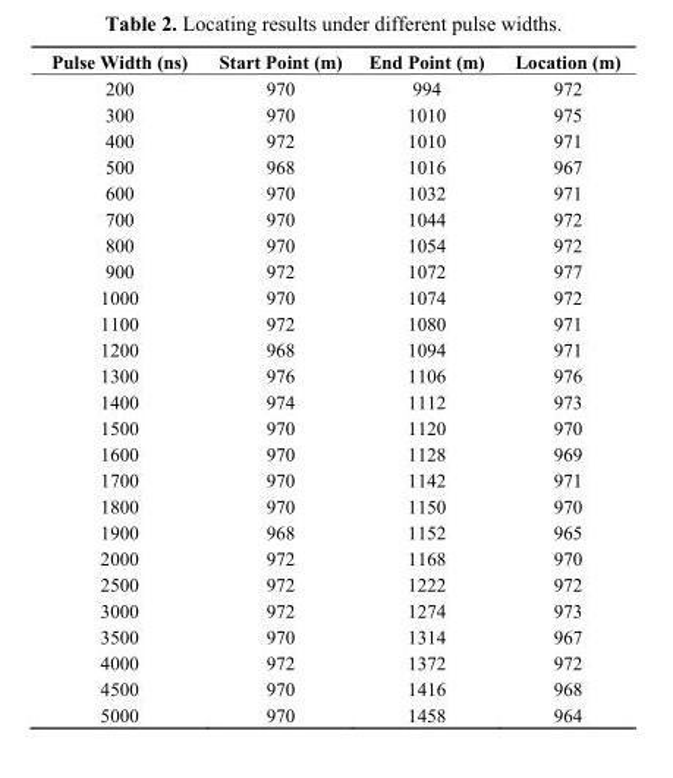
<table><thead><tr><td>Pulse Width (ns)</td><td>Start Point (m)</td><td>End Point (m)</td><td>Location (m)</td></tr></thead><tbody><tr><td>200</td><td>970</td><td>994</td><td>972</td></tr><tr><td>300</td><td>970</td><td>1010</td><td>975</td></tr><tr><td>400</td><td>972</td><td>1010</td><td>971</td></tr><tr><td>500</td><td>968</td><td>1016</td><td>967</td></tr><tr><td>600</td><td>970</td><td>1032</td><td>971</td></tr><tr><td>700</td><td>970</td><td>1044</td><td>972</td></tr><tr><td>800</td><td>970</td><td>1054</td><td>972</td></tr><tr><td>900</td><td>972</td><td>1072</td><td>977</td></tr><tr><td>1000</td><td>970</td><td>1074</td><td>972</td></tr><tr><td>1100</td><td>972</td><td>1080</td><td>971</td></tr><tr><td>1200</td><td>968</td><td>1094</td><td>971</td></tr><tr><td>1300</td><td>976</td><td>1106</td><td>976</td></tr><tr><td>1400</td><td>974</td><td>1112</td><td>973</td></tr><tr><td>1500</td><td>970</td><td>1120</td><td>970</td></tr><tr><td>1600</td><td>970</td><td>1128</td><td>969</td></tr><tr><td>1700</td><td>970</td><td>1142</td><td>971</td></tr><tr><td>1800</td><td>970</td><td>1150</td><td>970</td></tr><tr><td>1900</td><td>968</td><td>1152</td><td>965</td></tr><tr><td>2000</td><td>972</td><td>1168</td><td>970</td></tr><tr><td>2500</td><td>972</td><td>1222</td><td>972</td></tr><tr><td>3000</td><td>972</td><td>1274</td><td>973</td></tr><tr><td>3500</td><td>970</td><td>1314</td><td>967</td></tr><tr><td>4000</td><td>972</td><td>1372</td><td>972</td></tr><tr><td>4500</td><td>970</td><td>1416</td><td>968</td></tr><tr><td>5000</td><td>970</td><td>1458</td><td>964</td></tr></tbody></table>